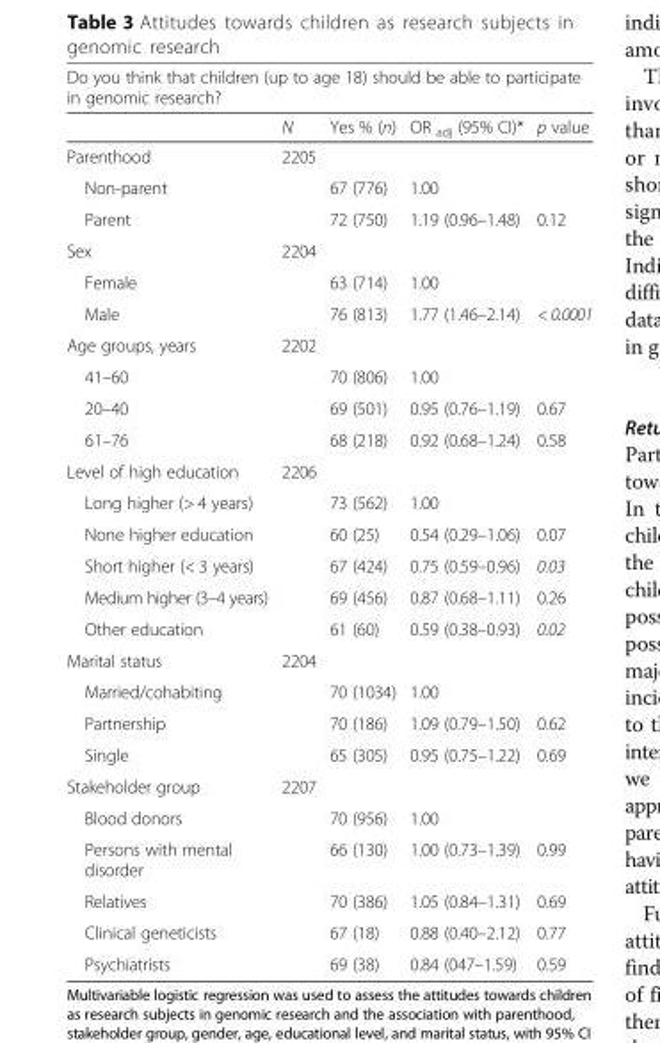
<table><thead><tr><td colspan="5">Do you think that children (up to age 18) should be able to participate in genomic research?</td></tr><tr><td></td><td>N</td><td>Yes % (n)</td><td>OR <sub>adj</sub> (95% CI)*</td><td>p value</td></tr></thead><tbody><tr><td>Parenthood</td><td>2205</td><td></td><td></td><td></td></tr><tr><td>Non-parent</td><td></td><td>67 (776)</td><td>1.00</td><td></td></tr><tr><td>Parent</td><td></td><td>72 (750)</td><td>1.19 (0.96–1.48)</td><td>0.12</td></tr><tr><td>Sex</td><td>2204</td><td></td><td></td><td></td></tr><tr><td>Female</td><td></td><td>63 (714)</td><td>1.00</td><td></td></tr><tr><td>Male</td><td></td><td>76 (813)</td><td>1.77 (1.46–2.14)</td><td>&lt; 0.0001</td></tr><tr><td>Age groups, years</td><td>2202</td><td></td><td></td><td></td></tr><tr><td>41–60</td><td></td><td>70 (806)</td><td>1.00</td><td></td></tr><tr><td>20–40</td><td></td><td>69 (501)</td><td>0.95 (0.76–1.19)</td><td>0.67</td></tr><tr><td>61–76</td><td></td><td>68 (218)</td><td>0.92 (0.68–1.24)</td><td>0.58</td></tr><tr><td>Level of high education</td><td>2206</td><td></td><td></td><td></td></tr><tr><td>Long higher (&gt; 4 years)</td><td></td><td>73 (562)</td><td>1.00</td><td></td></tr><tr><td>None higher education</td><td></td><td>60 (25)</td><td>0.54 (0.29–1.06)</td><td>0.07</td></tr><tr><td>Short higher (&lt; 3 years)</td><td></td><td>67 (424)</td><td>0.75 (0.59–0.96)</td><td>0.03</td></tr><tr><td>Medium higher (3–4 years)</td><td></td><td>69 (456)</td><td>0.87 (0.68–1.11)</td><td>0.26</td></tr><tr><td>Other education</td><td></td><td>61 (60)</td><td>0.59 (0.38–0.93)</td><td>0.02</td></tr><tr><td>Marital status</td><td>2204</td><td></td><td></td><td></td></tr><tr><td>Married/cohabiting</td><td></td><td>70 (1034)</td><td>1.00</td><td></td></tr><tr><td>Partnership</td><td></td><td>70 (186)</td><td>1.09 (0.79–1.50)</td><td>0.62</td></tr><tr><td>Single</td><td></td><td>65 (305)</td><td>0.95 (0.75–1.22)</td><td>0.69</td></tr><tr><td>Stakeholder group</td><td>2207</td><td></td><td></td><td></td></tr><tr><td>Blood donors</td><td></td><td>70 (956)</td><td>1.00</td><td></td></tr><tr><td>Persons with mental disorder</td><td></td><td>66 (130)</td><td>1.00 (0.73–1.39)</td><td>0.99</td></tr><tr><td>Relatives</td><td></td><td>70 (386)</td><td>1.05 (0.84–1.31)</td><td>0.69</td></tr><tr><td>Clinical geneticists</td><td></td><td>67 (18)</td><td>0.88 (0.40–2.12)</td><td>0.77</td></tr><tr><td>Psychiatrists</td><td></td><td>69 (38)</td><td>0.84 (047–1.59)</td><td>0.59</td></tr></tbody></table>